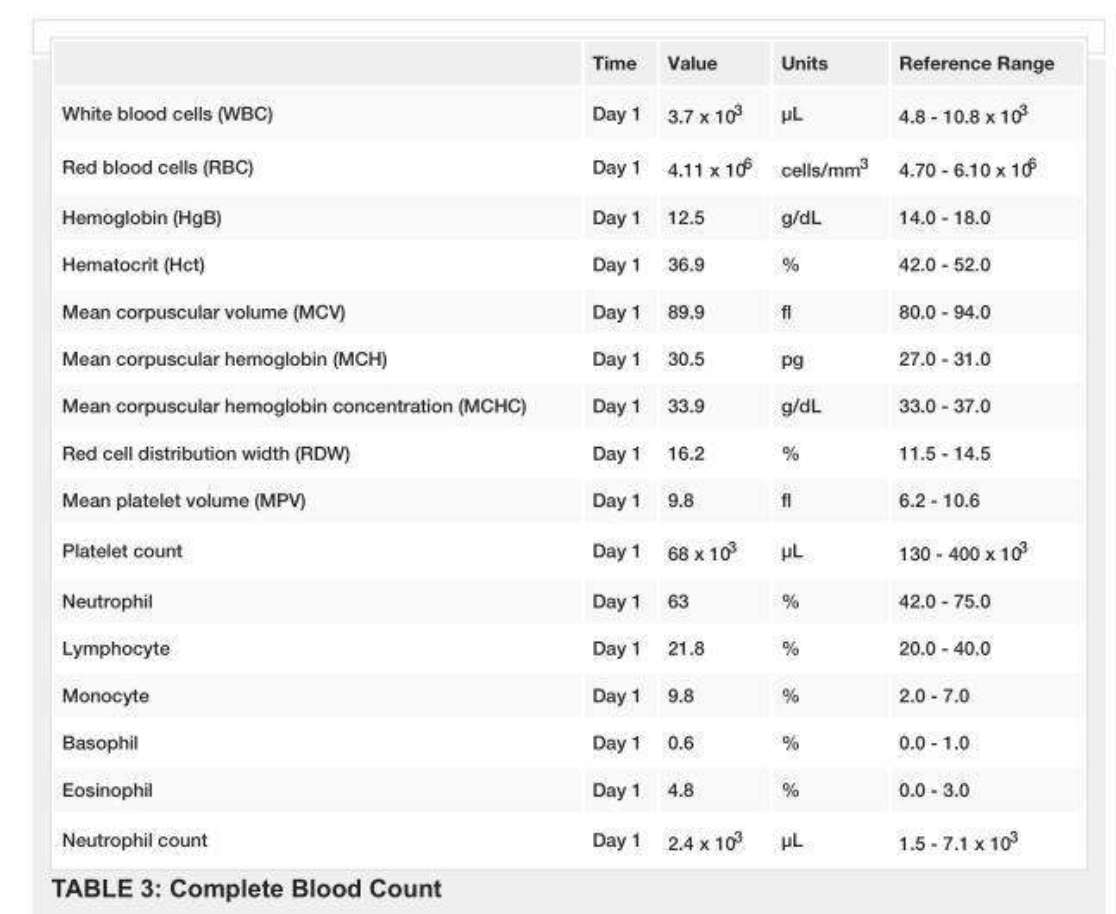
<table><thead><tr><td></td><td>Time</td><td>Value</td><td>Units</td><td>Reference Range</td></tr></thead><tbody><tr><td>White blood cells (WBC)</td><td>Day 1</td><td>3.7 x 10<sup>3</sup></td><td>µL</td><td>4.8 - 10.8 x 10<sup>3</sup></td></tr><tr><td>Red blood cells (RBC)</td><td>Day 1</td><td>4.11 x 10<sup>6</sup></td><td>cells/mm<sup>3</sup></td><td>4.70 - 6.10 x 10<sup>6</sup></td></tr><tr><td>Hemoglobin (HgB)</td><td>Day 1</td><td>12.5</td><td>g/dL</td><td>14.0 - 18.0</td></tr><tr><td>Hematocrit (Hct)</td><td>Day 1</td><td>36.9</td><td>%</td><td>42.0 - 52.0</td></tr><tr><td>Mean corpuscular volume (MCV)</td><td>Day 1</td><td>89.9</td><td>fl</td><td>80.0 - 94.0</td></tr><tr><td>Mean corpuscular hemoglobin (MCH)</td><td>Day 1</td><td>30.5</td><td>pg</td><td>27.0 - 31.0</td></tr><tr><td>Mean corpuscular hemoglobin concentration (MCHC)</td><td>Day 1</td><td>33.9</td><td>g/dL</td><td>33.0 - 37.0</td></tr><tr><td>Red cell distribution width (RDW)</td><td>Day 1</td><td>16.2</td><td>%</td><td>11.5 - 14.5</td></tr><tr><td>Mean platelet volume (MPV)</td><td>Day 1</td><td>9.8</td><td>fl</td><td>6.2 - 10.6</td></tr><tr><td>Platelet count</td><td>Day 1</td><td>68 x 10<sup>3</sup></td><td>µL</td><td>130 - 400 x 10<sup>3</sup></td></tr><tr><td>Neutrophil</td><td>Day 1</td><td>63</td><td>%</td><td>42.0 - 75.0</td></tr><tr><td>Lymphocyte</td><td>Day 1</td><td>21.8</td><td>%</td><td>20.0 - 40.0</td></tr><tr><td>Monocyte</td><td>Day 1</td><td>9.8</td><td>%</td><td>2.0 - 7.0</td></tr><tr><td>Basophil</td><td>Day 1</td><td>0.6</td><td>%</td><td>0.0 - 1.0</td></tr><tr><td>Eosinophil</td><td>Day 1</td><td>4.8</td><td>%</td><td>0.0 - 3.0</td></tr><tr><td>Neutrophil count</td><td>Day 1</td><td>2.4 x 10<sup>3</sup></td><td>µL</td><td>1.5 - 7.1 x 10<sup>3</sup></td></tr></tbody></table>